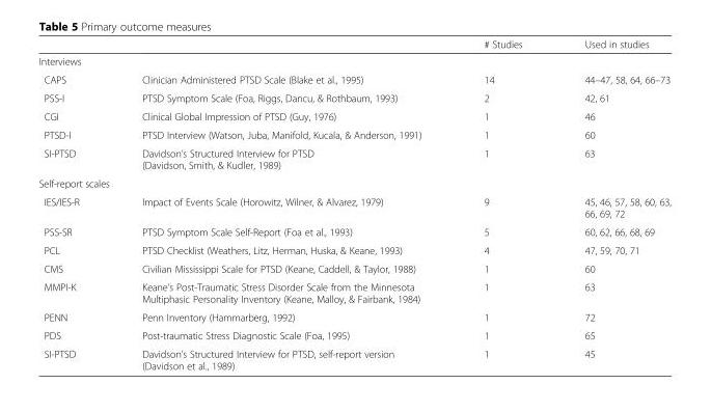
<table><thead><tr><td></td><td></td><td># Studies</td><td>Used in studies</td></tr></thead><tbody><tr><td colspan="4">Interviews</td></tr><tr><td>CAPS</td><td>Clinician Administered PTSD Scale (Blake et al., 1995)</td><td>14</td><td>44–47, 58, 64, 66–73</td></tr><tr><td>PSS-I</td><td>PTSD Symptom Scale (Foa, Riggs, Dancu, &amp; Rothbaum, 1993)</td><td>2</td><td>42, 61</td></tr><tr><td>CGI</td><td>Clinical Global Impression of PTSD (Guy, 1976)</td><td>1</td><td>46</td></tr><tr><td>PTSD-I</td><td>PTSD Interview (Watson, Juba, Manifold, Kucala, &amp; Anderson, 1991)</td><td>1</td><td>60</td></tr><tr><td>SI-PTSD</td><td>Davidson’s Structured Interview for PTSD (Davidson, Smith, &amp; Kudler, 1989)</td><td>1</td><td>63</td></tr><tr><td colspan="4">Self-report scales</td></tr><tr><td>IES/IES-R</td><td>Impact of Events Scale (Horowitz, Wilner, &amp; Alvarez, 1979)</td><td>9</td><td>45, 46, 57, 58, 60, 63, 66, 69, 72</td></tr><tr><td>PSS-SR</td><td>PTSD Symptom Scale Self-Report (Foa et al., 1993)</td><td>5</td><td>60, 62, 66, 68, 69</td></tr><tr><td>PCL</td><td>PTSD Checklist (Weathers, Litz, Herman, Huska, &amp; Keane, 1993)</td><td>4</td><td>47, 59, 70, 71</td></tr><tr><td>CMS</td><td>Civilian Mississippi Scale for PTSD (Keane, Caddell, &amp; Taylor, 1988)</td><td>1</td><td>60</td></tr><tr><td>MMPI-K</td><td>Keane’s Post-Traumatic Stress Disorder Scale from the Minnesota Multiphasic Personality Inventory (Keane, Malloy, &amp; Fairbank, 1984)</td><td>1</td><td>63</td></tr><tr><td>PENN</td><td>Penn Inventory (Hammarberg, 1992)</td><td>1</td><td>72</td></tr><tr><td>PDS</td><td>Post-traumatic Stress Diagnostic Scale (Foa, 1995)</td><td>1</td><td>65</td></tr><tr><td>SI-PTSD</td><td>Davidson’s Structured Interview for PTSD, self-report version (Davidson et al., 1989)</td><td>1</td><td>45</td></tr></tbody></table>